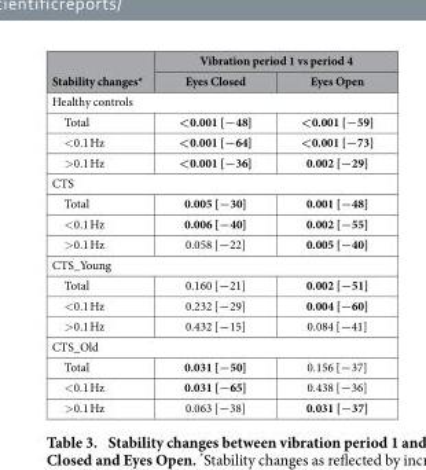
<table><thead><tr><td rowspan="2">Stability changes*</td><td colspan="2">Vibration period 1 vs period 4</td></tr><tr><td>Eyes Closed</td><td>Eyes Open</td></tr></thead><tbody><tr><td colspan="3">Healthy controls</td></tr><tr><td>Total</td><td>&lt;0.001 [−48]</td><td>&lt;0.001 [−59]</td></tr><tr><td>&lt; 0.1 Hz</td><td>&lt;0.001 [−64]</td><td>&lt;0.001 [−73]</td></tr><tr><td>&gt; 0.1 Hz</td><td>&lt;0.001 [−36]</td><td>0.002 [−29]</td></tr><tr><td colspan="3">CTS</td></tr><tr><td>Total</td><td>0.005 [−30]</td><td>0.001 [−48]</td></tr><tr><td>&lt; 0.1 Hz</td><td>0.006 [−40]</td><td>0.002 [−55]</td></tr><tr><td>&gt; 0.1 Hz</td><td>0.058 [−22]</td><td>0.005 [−40]</td></tr><tr><td colspan="3">CTS_Young</td></tr><tr><td>Total</td><td>0.160 [−21]</td><td>0.002 [−51]</td></tr><tr><td>&lt; 0.1 Hz</td><td>0.232 [−29]</td><td>0.004 [−60]</td></tr><tr><td>&gt; 0.1 Hz</td><td>0.432 [−15]</td><td>0.084 [−41]</td></tr><tr><td colspan="3">CTS_Old</td></tr><tr><td>Total</td><td>0.031 [−50]</td><td>0.156 [−37]</td></tr><tr><td>&lt; 0.1 Hz</td><td>0.031 [−65]</td><td>0.438 [−36]</td></tr><tr><td>&gt; 0.1 Hz</td><td>0.063 [−38]</td><td>0.031 [−37]</td></tr></tbody></table>